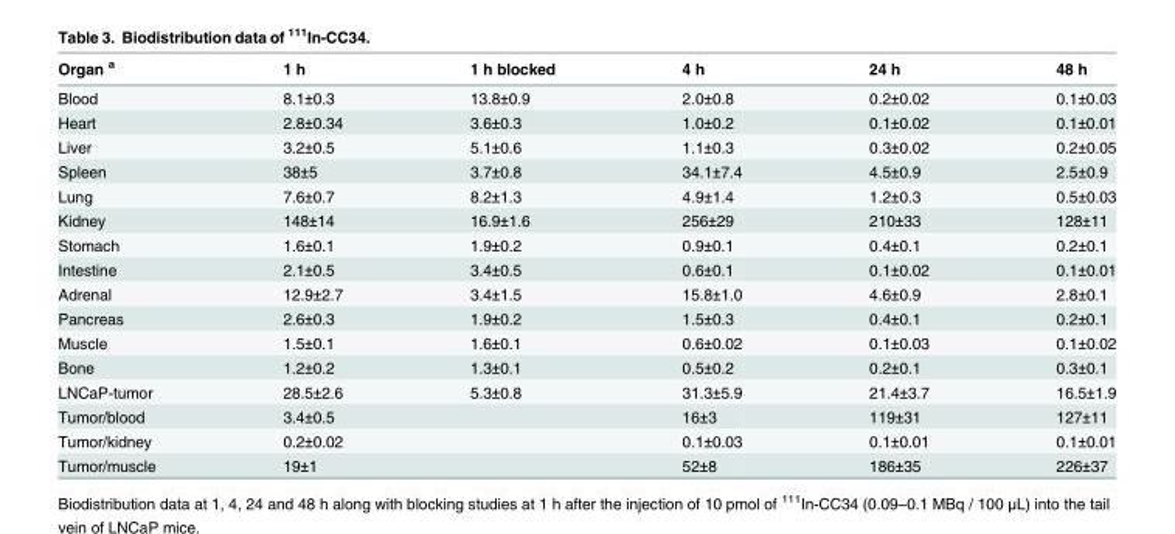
<table><thead><tr><td>Organ <sup>a</sup></td><td>1 h</td><td>1 h blocked</td><td>4 h</td><td>24 h</td><td>48 h</td></tr></thead><tbody><tr><td>Blood</td><td>8.1±0.3</td><td>13.8±0.9</td><td>2.0±0.8</td><td>0.2±0.02</td><td>0.1±0.03</td></tr><tr><td>Heart</td><td>2.8±0.34</td><td>3.6±0.3</td><td>1.0±0.2</td><td>0.1±0.02</td><td>0.1±0.01</td></tr><tr><td>Liver</td><td>3.2±0.5</td><td>5.1±0.6</td><td>1.1±0.3</td><td>0.3±0.02</td><td>0.2±0.05</td></tr><tr><td>Spleen</td><td>38±5</td><td>3.7±0.8</td><td>34.1±7.4</td><td>4.5±0.9</td><td>2.5±0.9</td></tr><tr><td>Lung</td><td>7.6±0.7</td><td>8.2±1.3</td><td>4.9±1.4</td><td>1.2±0.3</td><td>0.5±0.03</td></tr><tr><td>Kidney</td><td>148±14</td><td>16.9±1.6</td><td>256±29</td><td>210±33</td><td>128±11</td></tr><tr><td>Stomach</td><td>1.6±0.1</td><td>1.9±0.2</td><td>0.9±0.1</td><td>0.4±0.1</td><td>0.2±0.1</td></tr><tr><td>Intestine</td><td>2.1±0.5</td><td>3.4±0.5</td><td>0.6±0.1</td><td>0.1±0.02</td><td>0.1±0.01</td></tr><tr><td>Adrenal</td><td>12.9±2.7</td><td>3.4±1.5</td><td>15.8±1.0</td><td>4.6±0.9</td><td>2.8±0.1</td></tr><tr><td>Pancreas</td><td>2.6±0.3</td><td>1.9±0.2</td><td>1.5±0.3</td><td>0.4±0.1</td><td>0.2±0.1</td></tr><tr><td>Muscle</td><td>1.5±0.1</td><td>1.6±0.1</td><td>0.6±0.02</td><td>0.1±0.03</td><td>0.1±0.02</td></tr><tr><td>Bone</td><td>1.2±0.2</td><td>1.3±0.1</td><td>0.5±0.2</td><td>0.2±0.1</td><td>0.3±0.1</td></tr><tr><td>LNCaP-tumor</td><td>28.5±2.6</td><td>5.3±0.8</td><td>31.3±5.9</td><td>21.4±3.7</td><td>16.5±1.9</td></tr><tr><td>Tumor/blood</td><td>3.4±0.5</td><td></td><td>16±3</td><td>119±31</td><td>127±11</td></tr><tr><td>Tumor/kidney</td><td>0.2±0.02</td><td></td><td>0.1±0.03</td><td>0.1±0.01</td><td>0.1±0.01</td></tr><tr><td>Tumor/muscle</td><td>19±1</td><td></td><td>52±8</td><td>186±35</td><td>226±37</td></tr></tbody></table>